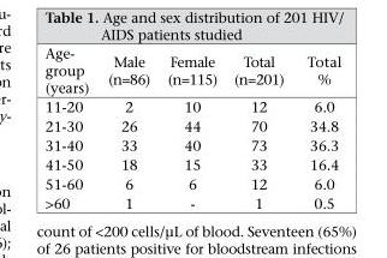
<table><thead><tr><td>Age- group (years)</td><td>Male (n=86)</td><td>Female (n=115)</td><td>Total (n=201)</td><td>Total %</td></tr></thead><tbody><tr><td>11-20</td><td>2</td><td>10</td><td>12</td><td>6.0</td></tr><tr><td>21-30</td><td>26</td><td>44</td><td>70</td><td>34.8</td></tr><tr><td>31-40</td><td>33</td><td>40</td><td>73</td><td>36.3</td></tr><tr><td>41-50</td><td>18</td><td>15</td><td>33</td><td>16.4</td></tr><tr><td>51-60</td><td>6</td><td>6</td><td>12</td><td>6.0</td></tr><tr><td>&gt;60</td><td>1</td><td>-</td><td>1</td><td>0.5</td></tr></tbody></table>